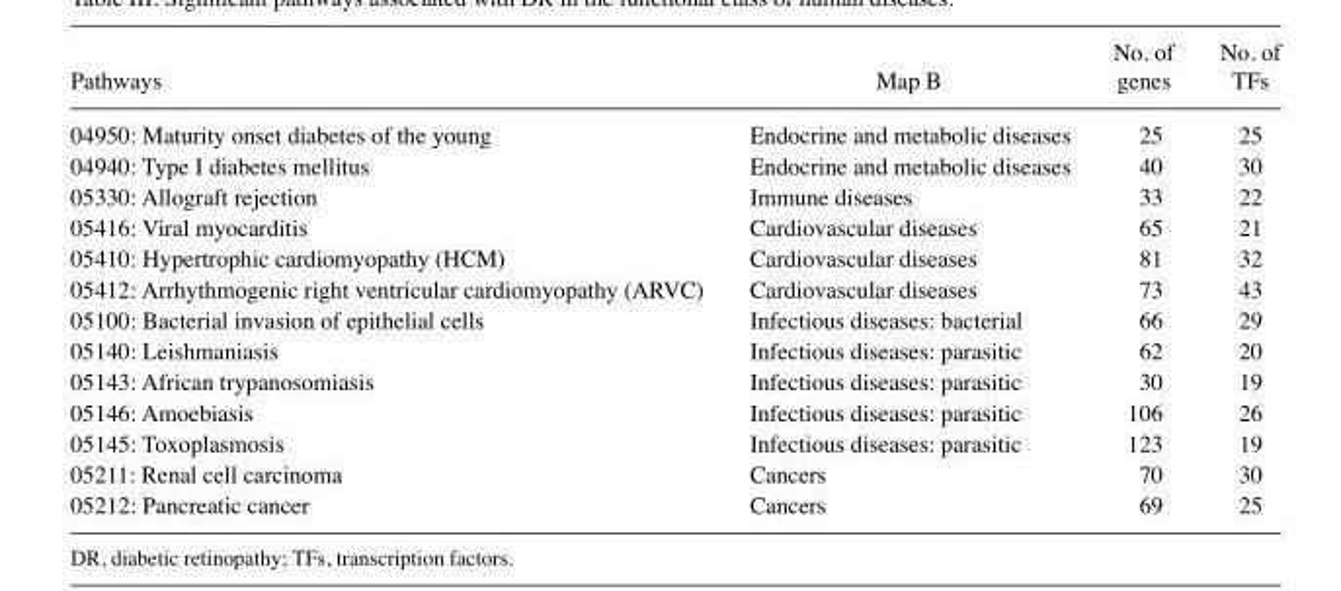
<table><thead><tr><td>Pathways</td><td>Map B</td><td>genes</td><td>TFs</td></tr></thead><tbody><tr><td>04950: Maturity onset diabetes of the young</td><td>Endocrine and metabolic diseases</td><td>25</td><td>25</td></tr><tr><td>04940: Type I diabetes mellitus</td><td>Endocrine and metabolic diseases</td><td>40</td><td>30</td></tr><tr><td>05330: Allograft rejection</td><td>Immune diseases</td><td>33</td><td>22</td></tr><tr><td>05416: Viral myocarditis</td><td>Cardiovascular diseases</td><td>65</td><td>21</td></tr><tr><td>05410: Hypertrophic cardiomyopathy (HCM)</td><td>Cardiovascular diseases</td><td>81</td><td>32</td></tr><tr><td>05412: Arrhythmogenic right ventricular cardiomyopathy (ARVC)</td><td>Cardiovascular diseases</td><td>73</td><td>43</td></tr><tr><td>05100: Bacterial invasion of epithelial cells</td><td>Infectious diseases: bacterial</td><td>66</td><td>29</td></tr><tr><td>05140: Leishmaniasis</td><td>Infectious diseases: parasitic</td><td>62</td><td>20</td></tr><tr><td>05143: African trypanosomiasis</td><td>Infectious diseases: parasitic</td><td>30</td><td>19</td></tr><tr><td>05146: Amoebiasis</td><td>Infectious diseases: parasitic</td><td>106</td><td>26</td></tr><tr><td>05145: Toxoplasmosis</td><td>Infectious diseases: parasitic</td><td>123</td><td>19</td></tr><tr><td>05211: Renal cell carcinoma</td><td>Cancers</td><td>70</td><td>30</td></tr><tr><td>05212: Pancreatic cancer</td><td>Cancers</td><td>69</td><td>25</td></tr></tbody></table>